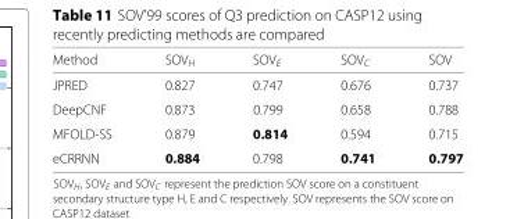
<table><thead><tr><td>Method</td><td>SOV<sub>H</sub></td><td>SOV<sub>E</sub></td><td>SOV<sub>C</sub></td><td>SOV</td></tr></thead><tbody><tr><td>JPRED</td><td>0.827</td><td>0.747</td><td>0.676</td><td>0.737</td></tr><tr><td>DeepCNF</td><td>0.873</td><td>0.799</td><td>0.658</td><td>0.788</td></tr><tr><td>MFOLD-SS</td><td>0.879</td><td>0.814</td><td>0.594</td><td>0.715</td></tr><tr><td>eCRRNN</td><td>0.884</td><td>0.798</td><td>0.741</td><td>0.797</td></tr></tbody></table>